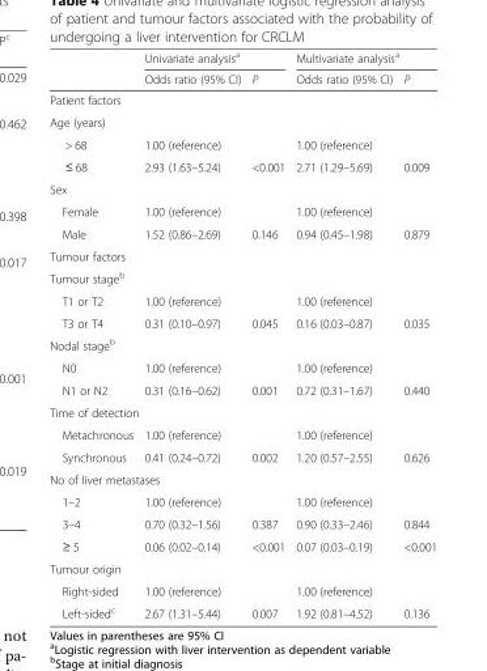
<table><thead><tr><td rowspan="2"></td><td colspan="2">Univariate analysis<sup>a</sup></td><td colspan="2">Multivariate analysis<sup>a</sup></td></tr><tr><td>Odds ratio (95% CI)</td><td>P</td><td>Odds ratio (95% CI)</td><td>P</td></tr></thead><tbody><tr><td colspan="5">Patient factors</td></tr><tr><td colspan="5">Age (years)</td></tr><tr><td>&gt; 68</td><td>1.00 (reference)</td><td></td><td>1.00 (reference)</td><td></td></tr><tr><td>≤ 68</td><td>2.93 (1.63–5.24)</td><td>&lt;0.001</td><td>2.71 (1.29–5.69)</td><td>0.009</td></tr><tr><td colspan="5">Sex</td></tr><tr><td>Female</td><td>1.00 (reference)</td><td></td><td>1.00 (reference)</td><td></td></tr><tr><td>Male</td><td>1.52 (0.86–2.69)</td><td>0.146</td><td>0.94 (0.45–1.98)</td><td>0.879</td></tr><tr><td colspan="5">Tumour factors</td></tr><tr><td colspan="5">Tumour stage<sup>b</sup></td></tr><tr><td>T1 or T2</td><td>1.00 (reference)</td><td></td><td>1.00 (reference)</td><td></td></tr><tr><td>T3 or T4</td><td>0.31 (0.10–0.97)</td><td>0.045</td><td>0.16 (0.03–0.87)</td><td>0.035</td></tr><tr><td colspan="5">Nodal stage<sup>b</sup></td></tr><tr><td>N0</td><td>1.00 (reference)</td><td></td><td>1.00 (reference)</td><td></td></tr><tr><td>N1 or N2</td><td>0.31 (0.16–0.62)</td><td>0.001</td><td>0.72 (0.31–1.67)</td><td>0.440</td></tr><tr><td colspan="5">Time of detection</td></tr><tr><td>Metachronous</td><td>1.00 (reference)</td><td></td><td>1.00 (reference)</td><td></td></tr><tr><td>Synchronous</td><td>0.41 (0.24–0.72)</td><td>0.002</td><td>1.20 (0.57–2.55)</td><td>0.626</td></tr><tr><td colspan="5">No of liver metastases</td></tr><tr><td>1–2</td><td>1.00 (reference)</td><td></td><td>1.00 (reference)</td><td></td></tr><tr><td>3–4</td><td>0.70 (0.32–1.56)</td><td>0.387</td><td>0.90 (0.33–2.46)</td><td>0.844</td></tr><tr><td>≥ 5</td><td>0.06 (0.02–0.14)</td><td>&lt;0.001</td><td>0.07 (0.03–0.19)</td><td>&lt;0.001</td></tr><tr><td colspan="5">Tumour origin</td></tr><tr><td>Right-sided</td><td>1.00 (reference)</td><td></td><td>1.00 (reference)</td><td></td></tr><tr><td>Left-sided<sup>c</sup></td><td>2.67 (1.31–5.44)</td><td>0.007</td><td>1.92 (0.81–4.52)</td><td>0.136</td></tr></tbody></table>